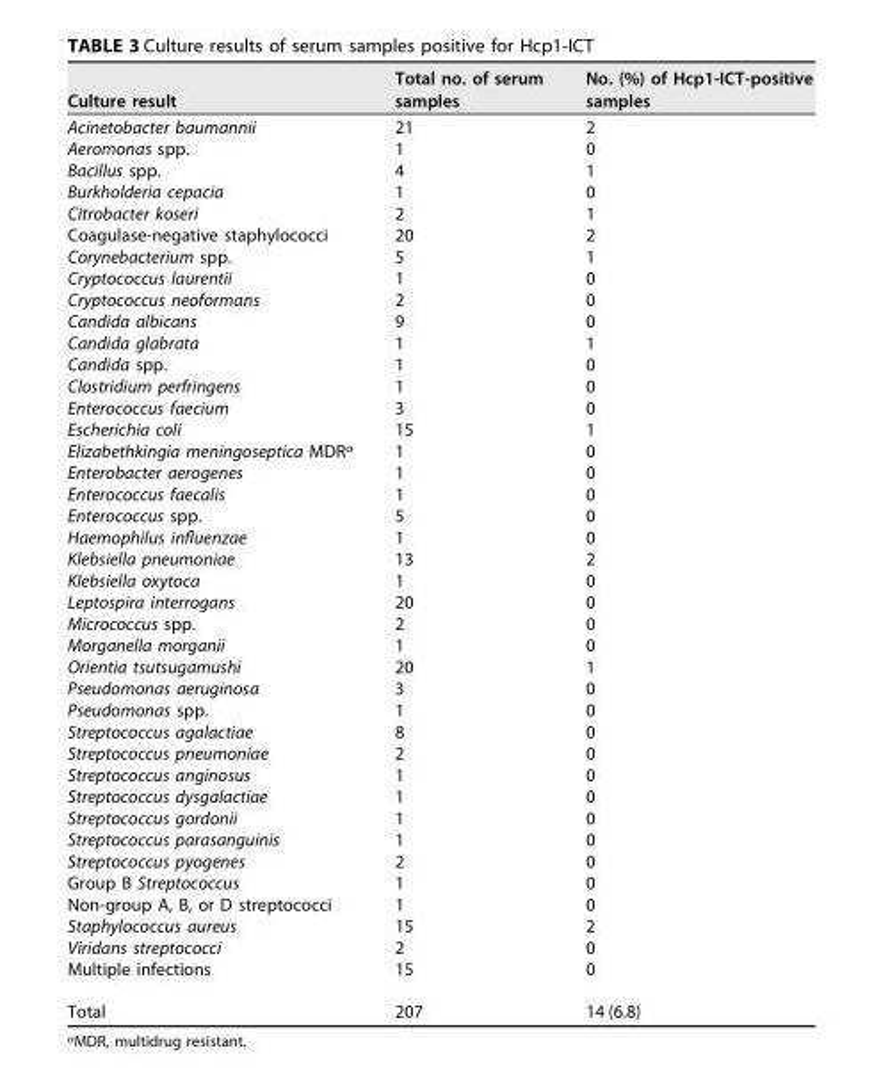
<table><thead><tr><td>Culture result</td><td>Total no. of serum samples</td><td>No. (%) of Hcp1-ICT-positive samples</td></tr></thead><tbody><tr><td>Acinetobacter baumannii</td><td>21</td><td>2</td></tr><tr><td>Aeromonas spp.</td><td>1</td><td>0</td></tr><tr><td>Bacillus spp.</td><td>4</td><td>1</td></tr><tr><td>Burkholderia cepacia</td><td>1</td><td>0</td></tr><tr><td>Citrobacter koseri</td><td>2</td><td>1</td></tr><tr><td>Coagulase-negative staphylococci</td><td>20</td><td>2</td></tr><tr><td>Corynebacterium spp.</td><td>5</td><td>1</td></tr><tr><td>Cryptococcus laurentii</td><td>1</td><td>0</td></tr><tr><td>Cryptococcus neoformans</td><td>2</td><td>0</td></tr><tr><td>Candida albicans</td><td>9</td><td>0</td></tr><tr><td>Candida glabrata</td><td>1</td><td>1</td></tr><tr><td>Candida spp.</td><td>1</td><td>0</td></tr><tr><td>Clostridium perfringens</td><td>1</td><td>0</td></tr><tr><td>Enterococcus faecium</td><td>3</td><td>0</td></tr><tr><td>Escherichia coli</td><td>15</td><td>1</td></tr><tr><td>Elizabethkingia meningoseptica MDR<sup>a</sup></td><td>1</td><td>0</td></tr><tr><td>Enterobacter aerogenes</td><td>1</td><td>0</td></tr><tr><td>Enterococcus faecalis</td><td>1</td><td>0</td></tr><tr><td>Enterococcus spp.</td><td>5</td><td>0</td></tr><tr><td>Haemophilus influenzae</td><td>1</td><td>0</td></tr><tr><td>Klebsiella pneumoniae</td><td>13</td><td>2</td></tr><tr><td>Klebsiella oxytoca</td><td>1</td><td>0</td></tr><tr><td>Leptospira interrogans</td><td>20</td><td>0</td></tr><tr><td>Micrococcus spp.</td><td>2</td><td>0</td></tr><tr><td>Morganella morganii</td><td>1</td><td>0</td></tr><tr><td>Orientia tsutsugamushi</td><td>20</td><td>1</td></tr><tr><td>Pseudomonas aeruginosa</td><td>3</td><td>0</td></tr><tr><td>Pseudomonas spp.</td><td>1</td><td>0</td></tr><tr><td>Streptococcus agalactiae</td><td>8</td><td>0</td></tr><tr><td>Streptococcus pneumoniae</td><td>2</td><td>0</td></tr><tr><td>Streptococcus anginosus</td><td>1</td><td>0</td></tr><tr><td>Streptococcus dysgalactiae</td><td>1</td><td>0</td></tr><tr><td>Streptococcus gordonii</td><td>1</td><td>0</td></tr><tr><td>Streptococcus parasanguinis</td><td>1</td><td>0</td></tr><tr><td>Streptococcus pyogenes</td><td>2</td><td>0</td></tr><tr><td>Group B Streptococcus</td><td>1</td><td>0</td></tr><tr><td>Non-group A, B, or D streptococci</td><td>1</td><td>0</td></tr><tr><td>Staphylococcus aureus</td><td>15</td><td>2</td></tr><tr><td>Viridans streptococci</td><td>2</td><td>0</td></tr><tr><td>Multiple infections</td><td>15</td><td>0</td></tr><tr><td>Total</td><td>207</td><td>14 (6.8)</td></tr></tbody></table>